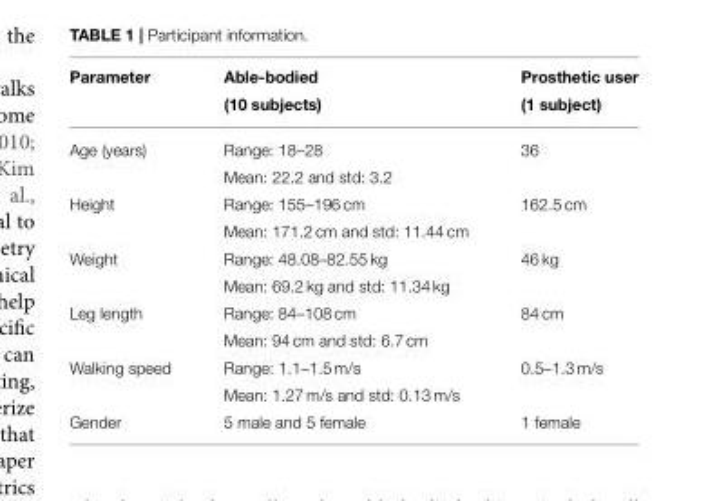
<table><thead><tr><td>Parameter</td><td>Able-bodied (10 subjects)</td><td>Prosthetic user (1 subject)</td></tr></thead><tbody><tr><td rowspan="2">Age (years)</td><td>Range: 18–28</td><td>36</td></tr><tr><td>Mean: 22.2 and std: 3.2</td><td></td></tr><tr><td rowspan="2">Height</td><td>Range: 155–196 cm</td><td>162.5 cm</td></tr><tr><td>Mean: 171.2 cm and std: 11.44 cm</td><td></td></tr><tr><td rowspan="2">Weight</td><td>Range: 48.08–82.55 kg</td><td>46 kg</td></tr><tr><td>Mean: 69.2 kg and std: 11.34 kg</td><td></td></tr><tr><td rowspan="2">Leg length</td><td>Range: 84–108 cm</td><td>84 cm</td></tr><tr><td>Mean: 94 cm and std: 6.7 cm</td><td></td></tr><tr><td rowspan="2">Walking speed</td><td>Range: 1.1–1.5 m/s</td><td>0.5–1.3 m/s</td></tr><tr><td>Mean: 1.27 m/s and std: 0.13 m/s</td><td></td></tr><tr><td>Gender</td><td>5 male and 5 female</td><td>1 female</td></tr></tbody></table>